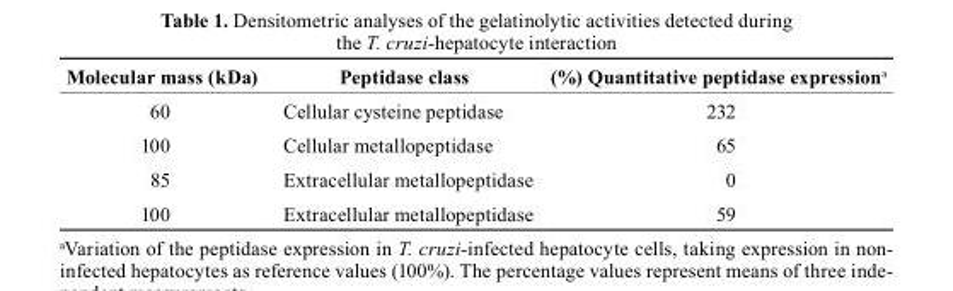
<table><thead><tr><td>Molecular mass (kDa)</td><td>Peptidase class</td><td>(%) Quantitative peptidase expression<sup>a</sup></td></tr></thead><tbody><tr><td>60</td><td>Cellular cysteine peptidase</td><td>232</td></tr><tr><td>100</td><td>Cellular metallopeptidase</td><td>65</td></tr><tr><td>85</td><td>Extracellular metallopeptidase</td><td>0</td></tr><tr><td>100</td><td>Extracellular metallopeptidase</td><td>59</td></tr></tbody></table>